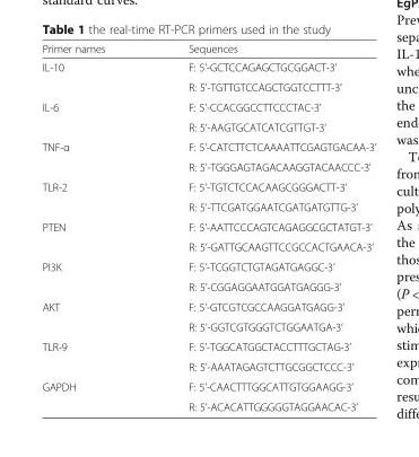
<table><thead><tr><td>Primer names</td><td>Sequences</td></tr></thead><tbody><tr><td rowspan="2">IL-10</td><td>F: 5’-GCTCCAGAGCTGCGGACT-3’</td></tr><tr><td>R: 5’-TGTTGTCCAGCTGGTCCTTT-3’</td></tr><tr><td rowspan="2">IL-6</td><td>F: 5’-CCACGGCCTTCCCTAC-3’</td></tr><tr><td>R: 5’-AAGTGCATCATCGTTGT-3’</td></tr><tr><td rowspan="2">TNF-α</td><td>F: 5’-CATCTTCTCAAAATTCGAGTGACAA-3’</td></tr><tr><td>R: 5’-TGGGAGTAGACAAGGTACAACCC-3’</td></tr><tr><td rowspan="2">TLR-2</td><td>F: 5’-TGTCTCCACAAGCGGGACTT-3’</td></tr><tr><td>R: 5’-TTCGATGGAATCGATGATGTTG-3’</td></tr><tr><td rowspan="2">PTEN</td><td>F: 5’-AATTCCCAGTCAGAGGCGCTATGT-3’</td></tr><tr><td>R: 5’-GATTGCAAGTTCCGCCACTGAACA-3’</td></tr><tr><td rowspan="2">PI3K</td><td>F: 5’-TCGGTCTGTAGATGAGGC-3’</td></tr><tr><td>R: 5’-CGGAGGAATGGATGAGGG-3’</td></tr><tr><td rowspan="2">AKT</td><td>F: 5’-GTCGTCGCCAAGGATGAGG-3’</td></tr><tr><td>R: 5’-GGTCGTGGGTCTGGAATGA-3’</td></tr><tr><td rowspan="2">TLR-9</td><td>F: 5’-TGGCATGGCTACCTTTGCTAG-3’</td></tr><tr><td>R: 5’-AAATAGAGTCTTGCGGCTCCC-3’</td></tr><tr><td rowspan="2">GAPDH</td><td>F: 5’-CAACTTTGGCATTGTGGAAGG-3’</td></tr><tr><td>R: 5’-ACACATTGGGGGTAGGAACAC-3’</td></tr></tbody></table>